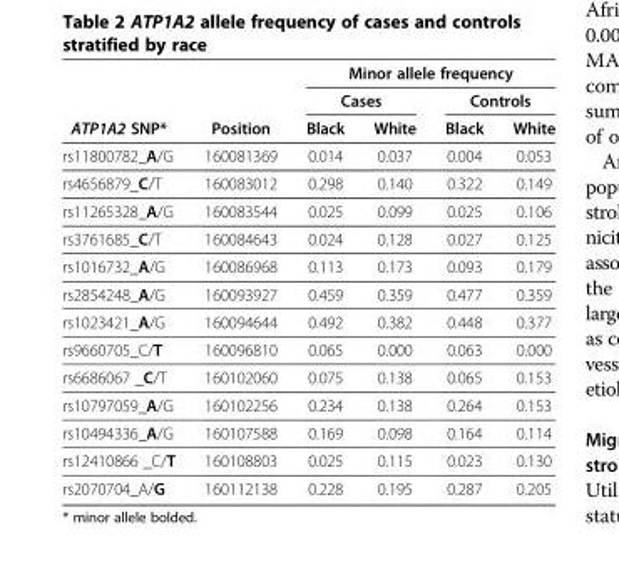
<table><thead><tr><td rowspan="3">ATP1A2 SNP*</td><td rowspan="3">Position</td><td colspan="4">Minor allele frequency</td></tr><tr><td colspan="2">Cases</td><td colspan="2">Controls</td></tr><tr><td>Black</td><td>White</td><td>Black</td><td>White</td></tr></thead><tbody><tr><td>rs11800782_A/G</td><td>160081369</td><td>0.014</td><td>0.037</td><td>0.004</td><td>0.053</td></tr><tr><td>rs4656879_C/T</td><td>160083012</td><td>0.298</td><td>0.140</td><td>0.322</td><td>0.149</td></tr><tr><td>rs11265328_A/G</td><td>160083544</td><td>0.025</td><td>0.099</td><td>0.025</td><td>0.106</td></tr><tr><td>rs3761685_C/T</td><td>160084643</td><td>0.024</td><td>0.128</td><td>0.027</td><td>0.125</td></tr><tr><td>rs1016732_A/G</td><td>160086968</td><td>0.113</td><td>0.173</td><td>0.093</td><td>0.179</td></tr><tr><td>rs2854248_A/G</td><td>160093927</td><td>0.459</td><td>0.359</td><td>0.477</td><td>0.359</td></tr><tr><td>rs1023421_A/G</td><td>160094644</td><td>0.492</td><td>0.382</td><td>0.448</td><td>0.377</td></tr><tr><td>rs9660705_C/T</td><td>160096810</td><td>0.065</td><td>0.000</td><td>0.063</td><td>0.000</td></tr><tr><td>rs6686067 _C/T</td><td>160102060</td><td>0.075</td><td>0.138</td><td>0.065</td><td>0.153</td></tr><tr><td>rs10797059_A/G</td><td>160102256</td><td>0.234</td><td>0.138</td><td>0.264</td><td>0.153</td></tr><tr><td>rs10494336_A/G</td><td>160107588</td><td>0.169</td><td>0.098</td><td>0.164</td><td>0.114</td></tr><tr><td>rs12410866 _C/T</td><td>160108803</td><td>0.025</td><td>0.115</td><td>0.023</td><td>0.130</td></tr><tr><td>rs2070704_A/G</td><td>160112138</td><td>0.228</td><td>0.195</td><td>0.287</td><td>0.205</td></tr></tbody></table>